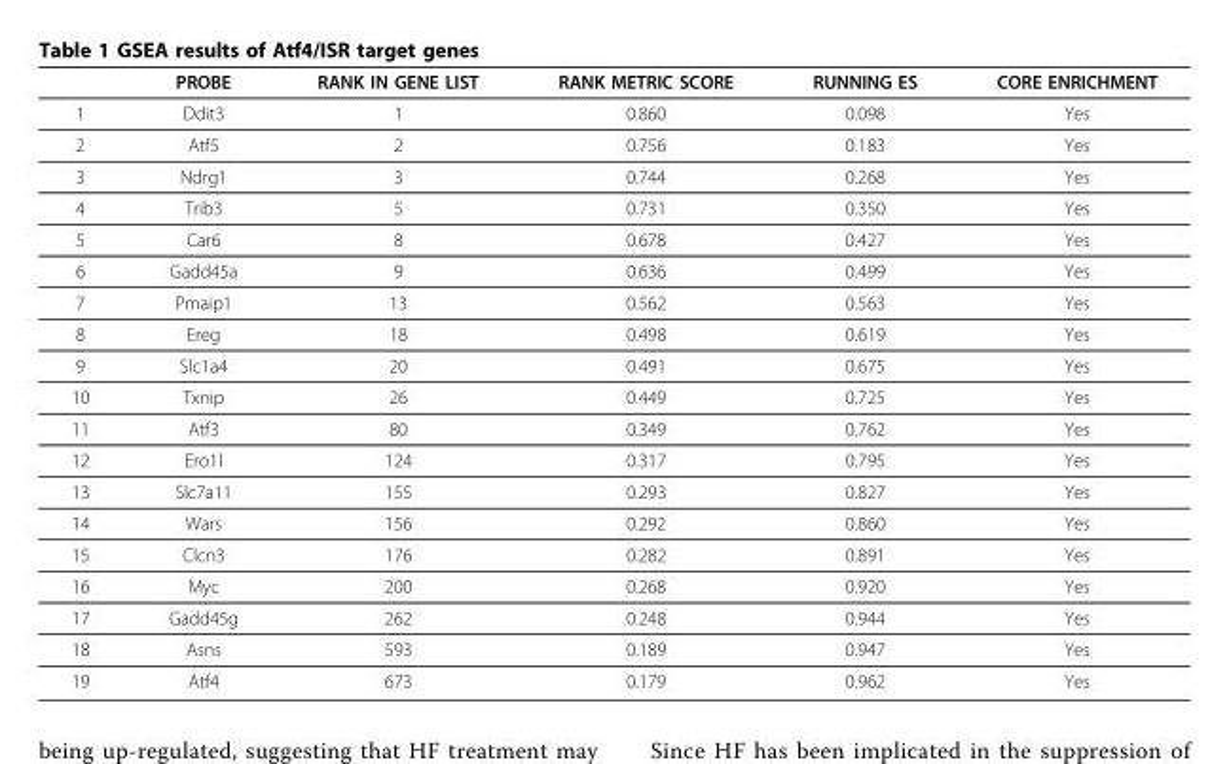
<table><thead><tr><td></td><td>PROBE</td><td>RANK IN GENE LIST</td><td>RANK METRIC SCORE</td><td>RUNNING ES</td><td>CORE ENRICHMENT</td></tr></thead><tbody><tr><td>1</td><td>Ddit3</td><td>1</td><td>0.860</td><td>0.098</td><td>Yes</td></tr><tr><td>2</td><td>Atf5</td><td>2</td><td>0.756</td><td>0.183</td><td>Yes</td></tr><tr><td>3</td><td>Ndrg1</td><td>3</td><td>0.744</td><td>0.268</td><td>Yes</td></tr><tr><td>4</td><td>Trib3</td><td>5</td><td>0.731</td><td>0.350</td><td>Yes</td></tr><tr><td>5</td><td>Car6</td><td>8</td><td>0.678</td><td>0.427</td><td>Yes</td></tr><tr><td>6</td><td>Gadd45a</td><td>9</td><td>0.636</td><td>0.499</td><td>Yes</td></tr><tr><td>7</td><td>Pmaip1</td><td>13</td><td>0.562</td><td>0.563</td><td>Yes</td></tr><tr><td>8</td><td>Ereg</td><td>18</td><td>0.498</td><td>0.619</td><td>Yes</td></tr><tr><td>9</td><td>Slc1a4</td><td>20</td><td>0.491</td><td>0.675</td><td>Yes</td></tr><tr><td>10</td><td>Txnip</td><td>26</td><td>0.449</td><td>0.725</td><td>Yes</td></tr><tr><td>11</td><td>Atf3</td><td>80</td><td>0.349</td><td>0.762</td><td>Yes</td></tr><tr><td>12</td><td>Ero1l</td><td>124</td><td>0.317</td><td>0.795</td><td>Yes</td></tr><tr><td>13</td><td>Slc7a11</td><td>155</td><td>0.293</td><td>0.827</td><td>Yes</td></tr><tr><td>14</td><td>Wars</td><td>156</td><td>0.292</td><td>0.860</td><td>Yes</td></tr><tr><td>15</td><td>Clcn3</td><td>176</td><td>0.282</td><td>0.891</td><td>Yes</td></tr><tr><td>16</td><td>Myc</td><td>200</td><td>0.268</td><td>0.920</td><td>Yes</td></tr><tr><td>17</td><td>Gadd45g</td><td>262</td><td>0.248</td><td>0.944</td><td>Yes</td></tr><tr><td>18</td><td>Asns</td><td>593</td><td>0.189</td><td>0.947</td><td>Yes</td></tr><tr><td>19</td><td>Atf4</td><td>673</td><td>0.179</td><td>0.962</td><td>Yes</td></tr></tbody></table>